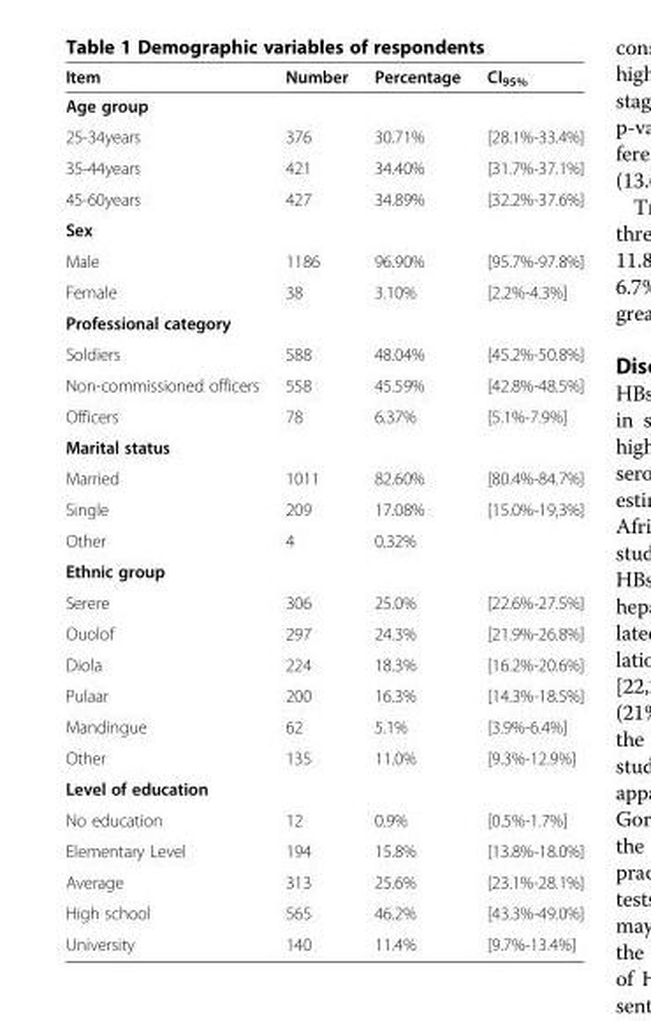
<table><thead><tr><td>Item</td><td>Number</td><td>Percentage</td><td>CI<sub>95%</sub></td></tr></thead><tbody><tr><td colspan="4">Age group</td></tr><tr><td>25-34years</td><td>376</td><td>30.71%</td><td>[28.1%-33.4%]</td></tr><tr><td>35-44years</td><td>421</td><td>34.40%</td><td>[31.7%-37.1%]</td></tr><tr><td>45-60years</td><td>427</td><td>34.89%</td><td>[32.2%-37.6%]</td></tr><tr><td colspan="4">Sex</td></tr><tr><td>Male</td><td>1186</td><td>96.90%</td><td>[95.7%-97.8%]</td></tr><tr><td>Female</td><td>38</td><td>3.10%</td><td>[2.2%-4.3%]</td></tr><tr><td colspan="4">Professional category</td></tr><tr><td>Soldiers</td><td>588</td><td>48.04%</td><td>[45.2%-50.8%]</td></tr><tr><td>Non-commissioned officers</td><td>558</td><td>45.59%</td><td>[42.8%-48.5%]</td></tr><tr><td>Officers</td><td>78</td><td>6.37%</td><td>[5.1%-7.9%]</td></tr><tr><td colspan="4">Marital status</td></tr><tr><td>Married</td><td>1011</td><td>82.60%</td><td>[80.4%-84.7%]</td></tr><tr><td>Single</td><td>209</td><td>17.08%</td><td>[15.0%-19,3%]</td></tr><tr><td>Other</td><td>4</td><td>0.32%</td><td></td></tr><tr><td colspan="4">Ethnic group</td></tr><tr><td>Serere</td><td>306</td><td>25.0%</td><td>[22.6%-27.5%]</td></tr><tr><td>Ouolof</td><td>297</td><td>24.3%</td><td>[21.9%-26.8%]</td></tr><tr><td>Diola</td><td>224</td><td>18.3%</td><td>[16.2%-20.6%]</td></tr><tr><td>Pulaar</td><td>200</td><td>16.3%</td><td>[14.3%-18.5%]</td></tr><tr><td>Mandingue</td><td>62</td><td>5.1%</td><td>[3.9%-6.4%]</td></tr><tr><td>Other</td><td>135</td><td>11.0%</td><td>[9.3%-12.9%]</td></tr><tr><td colspan="4">Level of education</td></tr><tr><td>No education</td><td>12</td><td>0.9%</td><td>[0.5%-1.7%]</td></tr><tr><td>Elementary Level</td><td>194</td><td>15.8%</td><td>[13.8%-18.0%]</td></tr><tr><td>Average</td><td>313</td><td>25.6%</td><td>[23.1%-28.1%]</td></tr><tr><td>High school</td><td>565</td><td>46.2%</td><td>[43.3%-49.0%]</td></tr><tr><td>University</td><td>140</td><td>11.4%</td><td>[9.7%-13.4%]</td></tr></tbody></table>